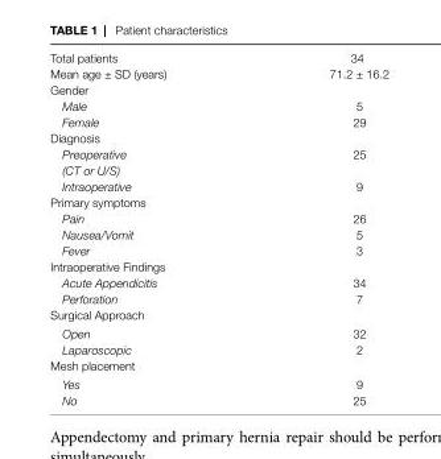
<table><tbody><tr><td>Total patients</td><td>34</td></tr><tr><td>Mean age ± SD (years)</td><td>71.2 ± 16.2</td></tr><tr><td colspan="2">Gender</td></tr><tr><td>Male</td><td>5</td></tr><tr><td>Female</td><td>29</td></tr><tr><td colspan="2">Diagnosis</td></tr><tr><td>Preoperative (CT or U/S)</td><td>25</td></tr><tr><td>Intraoperative</td><td>9</td></tr><tr><td colspan="2">Primary symptoms</td></tr><tr><td>Pain</td><td>26</td></tr><tr><td>Nausea/Vomit</td><td>5</td></tr><tr><td>Fever</td><td>3</td></tr><tr><td colspan="2">Intraoperative Findings</td></tr><tr><td>Acute Appendicitis</td><td>34</td></tr><tr><td>Perforation</td><td>7</td></tr><tr><td colspan="2">Surgical Approach</td></tr><tr><td>Open</td><td>32</td></tr><tr><td>Laparoscopic</td><td>2</td></tr><tr><td colspan="2">Mesh placement</td></tr><tr><td>Yes</td><td>9</td></tr><tr><td>No</td><td>25</td></tr></tbody></table>